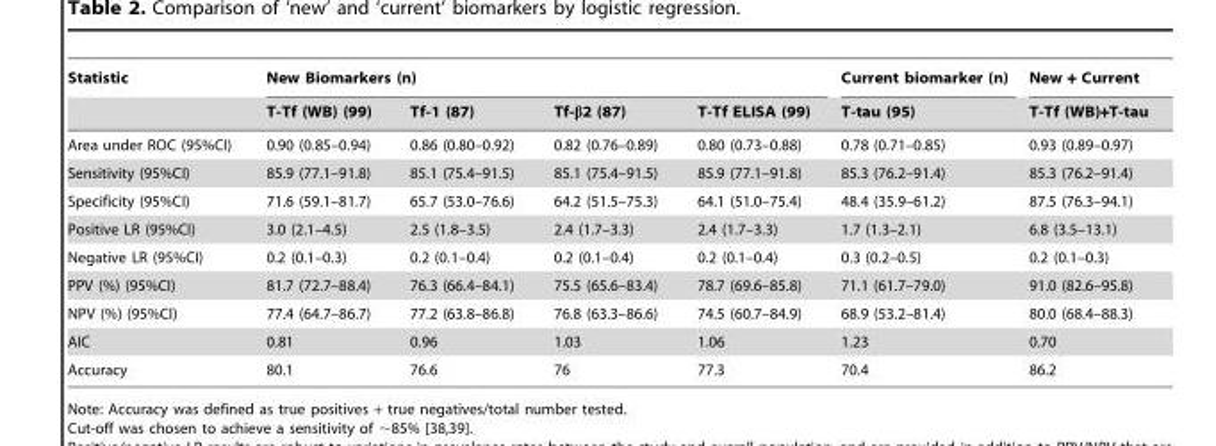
<table><thead><tr><td rowspan="2">Statistic</td><td colspan="4">New Biomarkers (n)</td><td rowspan="2">Current biomarker (n) T-tau (95)</td><td rowspan="2">New + Current T-Tf (WB)+T-tau</td></tr><tr><td>T-Tf (WB) (99)</td><td>Tf-1 (87)</td><td>Tf-β2 (87)</td><td>T-Tf ELISA (99)</td></tr></thead><tbody><tr><td>Area under ROC (95%CI)</td><td>0.90 (0.85–0.94)</td><td>0.86 (0.80–0.92)</td><td>0.82 (0.76–0.89)</td><td>0.80 (0.73–0.88)</td><td>0.78 (0.71–0.85)</td><td>0.93 (0.89–0.97)</td></tr><tr><td>Sensitivity (95%CI)</td><td>85.9 (77.1–91.8)</td><td>85.1 (75.4–91.5)</td><td>85.1 (75.4–91.5)</td><td>85.9 (77.1–91.8)</td><td>85.3 (76.2–91.4)</td><td>85.3 (76.2–91.4)</td></tr><tr><td>Specificity (95%CI)</td><td>71.6 (59.1–81.7)</td><td>65.7 (53.0–76.6)</td><td>64.2 (51.5–75.3)</td><td>64.1 (51.0–75.4)</td><td>48.4 (35.9–61.2)</td><td>87.5 (76.3–94.1)</td></tr><tr><td>Positive LR (95%CI)</td><td>3.0 (2.1–4.5)</td><td>2.5 (1.8–3.5)</td><td>2.4 (1.7–3.3)</td><td>2.4 (1.7–3.3)</td><td>1.7 (1.3–2.1)</td><td>6.8 (3.5–13.1)</td></tr><tr><td>Negative LR (95%CI)</td><td>0.2 (0.1–0.3)</td><td>0.2 (0.1–0.4)</td><td>0.2 (0.1–0.4)</td><td>0.2 (0.1–0.4)</td><td>0.3 (0.2–0.5)</td><td>0.2 (0.1–0.3)</td></tr><tr><td>PPV (%) (95%CI)</td><td>81.7 (72.7–88.4)</td><td>76.3 (66.4–84.1)</td><td>75.5 (65.6–83.4)</td><td>78.7 (69.6–85.8)</td><td>71.1 (61.7–79.0)</td><td>91.0 (82.6–95.8)</td></tr><tr><td>NPV (%) (95%CI)</td><td>77.4 (64.7–86.7)</td><td>77.2 (63.8–86.8)</td><td>76.8 (63.3–86.6)</td><td>74.5 (60.7–84.9)</td><td>68.9 (53.2–81.4)</td><td>80.0 (68.4–88.3)</td></tr><tr><td>AIC</td><td>0.81</td><td>0.96</td><td>1.03</td><td>1.06</td><td>1.23</td><td>0.70</td></tr><tr><td>Accuracy</td><td>80.1</td><td>76.6</td><td>76</td><td>77.3</td><td>70.4</td><td>86.2</td></tr></tbody></table>